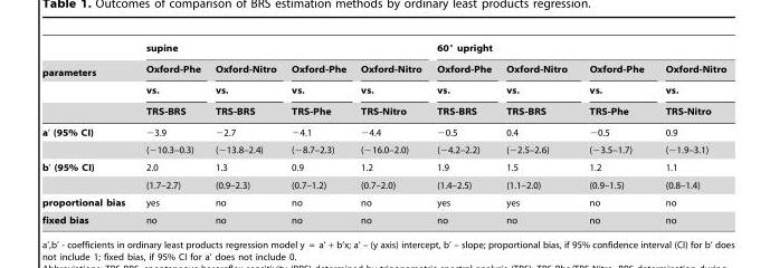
<table><thead><tr><td rowspan="4">parameters</td><td colspan="4">supine</td><td colspan="4">60° upright</td></tr><tr><td rowspan="3">Oxford-Phe vs. TRS-BRS</td><td rowspan="3">Oxford-Nitro vs. TRS-BRS</td><td rowspan="3">Oxford-Phe vs. TRS-Phe</td><td rowspan="3">Oxford-Nitro vs. TRS-Nitro</td><td rowspan="3">Oxford-Phe vs. TRS-BRS</td><td rowspan="3">Oxford-Nitro vs. TRS-BRS</td><td rowspan="3">Oxford-Phe vs. TRS-Phe</td><td rowspan="3">Oxford-Nitro vs. TRS-Nitro</td></tr><tr></tr><tr></tr></thead><tbody><tr><td rowspan="2">a’ (95% CI)</td><td>−3.9</td><td>−2.7</td><td>−4.1</td><td>−4.4</td><td>−0.5</td><td>0.4</td><td>−0.5</td><td>0.9</td></tr><tr><td>(−10.3–0.3)</td><td>(−13.8–2.4)</td><td>(−8.7–2.3)</td><td>(−16.0–2.0)</td><td>(−4.2–2.2)</td><td>(−2.5–2.6)</td><td>(−3.5–1.7)</td><td>(−1.9–3.1)</td></tr><tr><td rowspan="2">b’ (95% CI)</td><td>2.0</td><td>1.3</td><td>0.9</td><td>1.2</td><td>1.9</td><td>1.5</td><td>1.2</td><td>1.1</td></tr><tr><td>(1.7–2.7)</td><td>(0.9–2.3)</td><td>(0.7–1.2)</td><td>(0.7–2.0)</td><td>(1.4–2.5)</td><td>(1.1–2.0)</td><td>(0.9–1.5)</td><td>(0.8–1.4)</td></tr><tr><td>proportional bias</td><td>yes</td><td>no</td><td>no</td><td>no</td><td>yes</td><td>yes</td><td>no</td><td>no</td></tr><tr><td>fixed bias</td><td>no</td><td>no</td><td>no</td><td>no</td><td>no</td><td>no</td><td>no</td><td>no</td></tr></tbody></table>